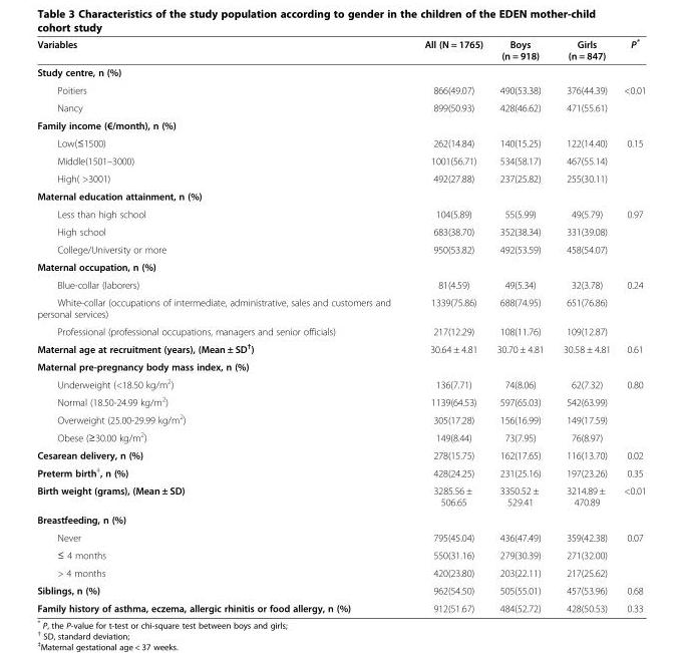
<table><thead><tr><td>Variables</td><td>All (N = 1765)</td><td>Boys (n = 918)</td><td>Girls (n = 847)</td><td>P*</td></tr></thead><tbody><tr><td colspan="5">Study centre, n (%)</td></tr><tr><td>Poitiers</td><td>866(49.07)</td><td>490(53.38)</td><td>376(44.39)</td><td>&lt;0.01</td></tr><tr><td>Nancy</td><td>899(50.93)</td><td>428(46.62)</td><td>471(55.61)</td><td></td></tr><tr><td colspan="5">Family income (€/month), n (%)</td></tr><tr><td>Low(≤1500)</td><td>262(14.84)</td><td>140(15.25)</td><td>122(14.40)</td><td>0.15</td></tr><tr><td>Middle(1501–3000)</td><td>1001(56.71)</td><td>534(58.17)</td><td>467(55.14)</td><td></td></tr><tr><td>High( &gt;3001)</td><td>492(27.88)</td><td>237(25.82)</td><td>255(30.11)</td><td></td></tr><tr><td colspan="5">Maternal education attainment, n (%)</td></tr><tr><td>Less than high school</td><td>104(5.89)</td><td>55(5.99)</td><td>49(5.79)</td><td>0.97</td></tr><tr><td>High school</td><td>683(38.70)</td><td>352(38.34)</td><td>331(39.08)</td><td></td></tr><tr><td>College/University or more</td><td>950(53.82)</td><td>492(53.59)</td><td>458(54.07)</td><td></td></tr><tr><td colspan="5">Maternal occupation, n (%)</td></tr><tr><td>Blue-collar (laborers)</td><td>81(4.59)</td><td>49(5.34)</td><td>32(3.78)</td><td>0.24</td></tr><tr><td>White-collar (occupations of intermediate, administrative, sales and customers and personal services)</td><td>1339(75.86)</td><td>688(74.95)</td><td>651(76.86)</td><td></td></tr><tr><td>Professional (professional occupations, managers and senior officials)</td><td>217(12.29)</td><td>108(11.76)</td><td>109(12.87)</td><td></td></tr><tr><td>Maternal age at recruitment (years), (Mean ± SD<sup>†</sup>)</td><td>30.64 ± 4.81</td><td>30.70 ± 4.81</td><td>30.58 ± 4.81</td><td>0.61</td></tr><tr><td colspan="5">Maternal pre-pregnancy body mass index, n (%)</td></tr><tr><td>Underweight (&lt;18.50 kg/m<sup>2</sup>)</td><td>136(7.71)</td><td>74(8.06)</td><td>62(7.32)</td><td>0.80</td></tr><tr><td>Normal (18.50-24.99 kg/m<sup>2</sup>)</td><td>1139(64.53)</td><td>597(65.03)</td><td>542(63.99)</td><td></td></tr><tr><td>Overweight (25.00-29.99 kg/m<sup>2</sup>)</td><td>305(17.28)</td><td>156(16.99)</td><td>149(17.59)</td><td></td></tr><tr><td>Obese (≥30.00 kg/m<sup>2</sup>)</td><td>149(8.44)</td><td>73(7.95)</td><td>76(8.97)</td><td></td></tr><tr><td>Cesarean delivery, n (%)</td><td>278(15.75)</td><td>162(17.65)</td><td>116(13.70)</td><td>0.02</td></tr><tr><td>Preterm birth<sup>‡</sup>, n (%)</td><td>428(24.25)</td><td>231(25.16)</td><td>197(23.26)</td><td>0.35</td></tr><tr><td>Birth weight (grams), (Mean ± SD)</td><td>3285.56 ± 506.65</td><td>3350.52 ± 529.41</td><td>3214.89 ± 470.89</td><td>&lt;0.01</td></tr><tr><td colspan="5">Breastfeeding, n (%)</td></tr><tr><td>Never</td><td>795(45.04)</td><td>436(47.49)</td><td>359(42.38)</td><td>0.07</td></tr><tr><td>≤ 4 months</td><td>550(31.16)</td><td>279(30.39)</td><td>271(32.00)</td><td></td></tr><tr><td>&gt; 4 months</td><td>420(23.80)</td><td>203(22.11)</td><td>217(25.62)</td><td></td></tr><tr><td>Siblings, n (%)</td><td>962(54.50)</td><td>505(55.01)</td><td>457(53.96)</td><td>0.68</td></tr><tr><td>Family history of asthma, eczema, allergic rhinitis or food allergy, n (%)</td><td>912(51.67)</td><td>484(52.72)</td><td>428(50.53)</td><td>0.33</td></tr></tbody></table>